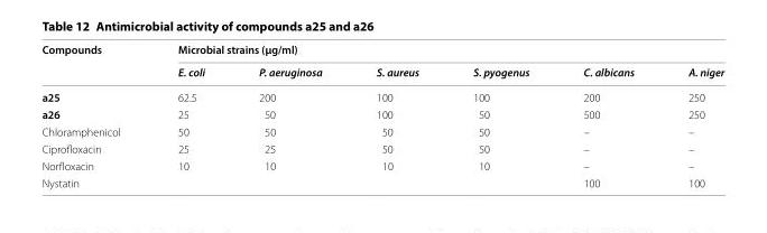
<table><thead><tr><td rowspan="2">Compounds</td><td colspan="6">Microbial strains (µg/ml)</td></tr><tr><td>E. coli</td><td>P. aeruginosa</td><td>S. aureus</td><td>S. pyogenus</td><td>C. albicans</td><td>A. niger</td></tr></thead><tbody><tr><td>a25</td><td>62.5</td><td>200</td><td>100</td><td>100</td><td>200</td><td>250</td></tr><tr><td>a26</td><td>25</td><td>50</td><td>100</td><td>50</td><td>500</td><td>250</td></tr><tr><td>Chloramphenicol</td><td>50</td><td>50</td><td>50</td><td>50</td><td>–</td><td>–</td></tr><tr><td>Ciprofloxacin</td><td>25</td><td>25</td><td>50</td><td>50</td><td>–</td><td>–</td></tr><tr><td>Norfloxacin</td><td>10</td><td>10</td><td>10</td><td>10</td><td>–</td><td>–</td></tr><tr><td>Nystatin</td><td></td><td></td><td></td><td></td><td>100</td><td>100</td></tr></tbody></table>